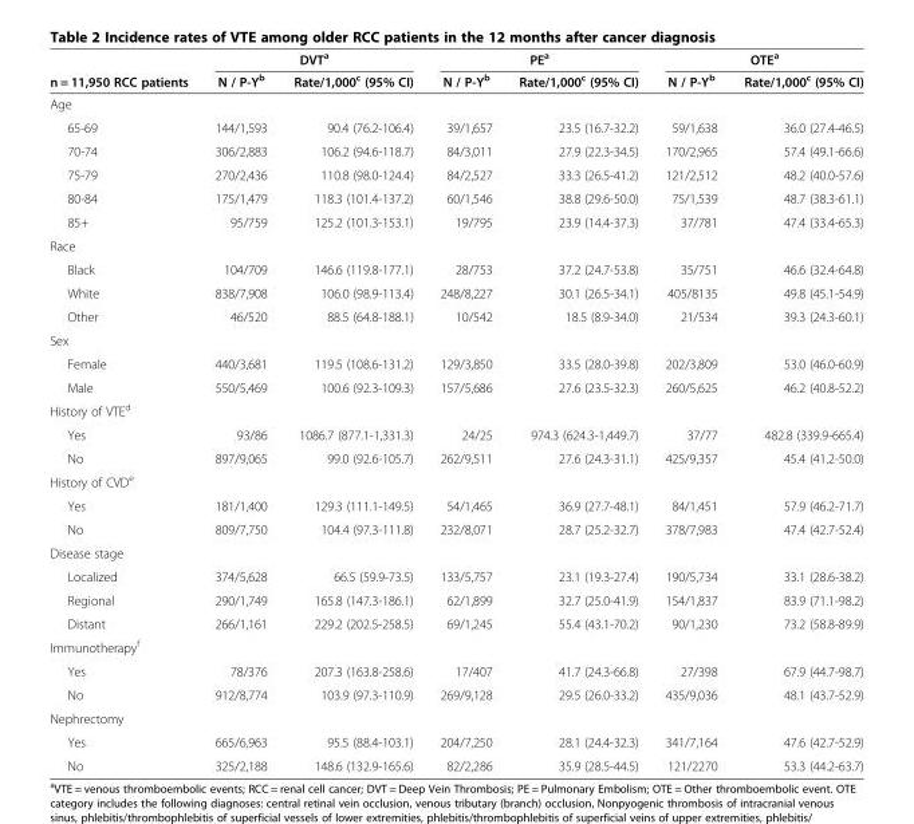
<table><thead><tr><td rowspan="2">n = 11,950 RCC patients</td><td colspan="2">DVT<sup>a</sup></td><td colspan="2">PE<sup>a</sup></td><td colspan="2">OTE<sup>a</sup></td></tr><tr><td>N / P-Y<sup>b</sup></td><td>Rate/1,000<sup>c</sup> (95% CI)</td><td>N / P-Y<sup>b</sup></td><td>Rate/1,000<sup>c</sup> (95% CI)</td><td>N / P-Y<sup>b</sup></td><td>Rate/1,000<sup>c</sup> (95% CI)</td></tr></thead><tbody><tr><td colspan="7">Age</td></tr><tr><td>65-69</td><td>144/1,593</td><td>90.4 (76.2-106.4)</td><td>39/1,657</td><td>23.5 (16.7-32.2)</td><td>59/1,638</td><td>36.0 (27.4-46.5)</td></tr><tr><td>70-74</td><td>306/2,883</td><td>106.2 (94.6-118.7)</td><td>84/3,011</td><td>27.9 (22.3-34.5)</td><td>170/2,965</td><td>57.4 (49.1-66.6)</td></tr><tr><td>75-79</td><td>270/2,436</td><td>110.8 (98.0-124.4)</td><td>84/2,527</td><td>33.3 (26.5-41.2)</td><td>121/2,512</td><td>48.2 (40.0-57.6)</td></tr><tr><td>80-84</td><td>175/1,479</td><td>118.3 (101.4-137.2)</td><td>60/1,546</td><td>38.8 (29.6-50.0)</td><td>75/1,539</td><td>48.7 (38.3-61.1)</td></tr><tr><td>85+</td><td>95/759</td><td>125.2 (101.3-153.1)</td><td>19/795</td><td>23.9 (14.4-37.3)</td><td>37/781</td><td>47.4 (33.4-65.3)</td></tr><tr><td colspan="7">Race</td></tr><tr><td>Black</td><td>104/709</td><td>146.6 (119.8-177.1)</td><td>28/753</td><td>37.2 (24.7-53.8)</td><td>35/751</td><td>46.6 (32.4-64.8)</td></tr><tr><td>White</td><td>838/7,908</td><td>106.0 (98.9-113.4)</td><td>248/8,227</td><td>30.1 (26.5-34.1)</td><td>405/8135</td><td>49.8 (45.1-54.9)</td></tr><tr><td>Other</td><td>46/520</td><td>88.5 (64.8-188.1)</td><td>10/542</td><td>18.5 (8.9-34.0)</td><td>21/534</td><td>39.3 (24.3-60.1)</td></tr><tr><td colspan="7">Sex</td></tr><tr><td>Female</td><td>440/3,681</td><td>119.5 (108.6-131.2)</td><td>129/3,850</td><td>33.5 (28.0-39.8)</td><td>202/3,809</td><td>53.0 (46.0-60.9)</td></tr><tr><td>Male</td><td>550/5,469</td><td>100.6 (92.3-109.3)</td><td>157/5,686</td><td>27.6 (23.5-32.3)</td><td>260/5,625</td><td>46.2 (40.8-52.2)</td></tr><tr><td colspan="7">History of VTE<sup>d</sup></td></tr><tr><td>Yes</td><td>93/86</td><td>1086.7 (877.1-1,331.3)</td><td>24/25</td><td>974.3 (624.3-1,449.7)</td><td>37/77</td><td>482.8 (339.9-665.4)</td></tr><tr><td>No</td><td>897/9,065</td><td>99.0 (92.6-105.7)</td><td>262/9,511</td><td>27.6 (24.3-31.1)</td><td>425/9,357</td><td>45.4 (41.2-50.0)</td></tr><tr><td colspan="7">History of CVD<sup>e</sup></td></tr><tr><td>Yes</td><td>181/1,400</td><td>129.3 (111.1-149.5)</td><td>54/1,465</td><td>36.9 (27.7-48.1)</td><td>84/1,451</td><td>57.9 (46.2-71.7)</td></tr><tr><td>No</td><td>809/7,750</td><td>104.4 (97.3-111.8)</td><td>232/8,071</td><td>28.7 (25.2-32.7)</td><td>378/7,983</td><td>47.4 (42.7-52.4)</td></tr><tr><td colspan="7">Disease stage</td></tr><tr><td>Localized</td><td>374/5,628</td><td>66.5 (59.9-73.5)</td><td>133/5,757</td><td>23.1 (19.3-27.4)</td><td>190/5,734</td><td>33.1 (28.6-38.2)</td></tr><tr><td>Regional</td><td>290/1,749</td><td>165.8 (147.3-186.1)</td><td>62/1,899</td><td>32.7 (25.0-41.9)</td><td>154/1,837</td><td>83.9 (71.1-98.2)</td></tr><tr><td>Distant</td><td>266/1,161</td><td>229.2 (202.5-258.5)</td><td>69/1,245</td><td>55.4 (43.1-70.2)</td><td>90/1,230</td><td>73.2 (58.8-89.9)</td></tr><tr><td colspan="7">Immunotherapy<sup>f</sup></td></tr><tr><td>Yes</td><td>78/376</td><td>207.3 (163.8-258.6)</td><td>17/407</td><td>41.7 (24.3-66.8)</td><td>27/398</td><td>67.9 (44.7-98.7)</td></tr><tr><td>No</td><td>912/8,774</td><td>103.9 (97.3-110.9)</td><td>269/9,128</td><td>29.5 (26.0-33.2)</td><td>435/9,036</td><td>48.1 (43.7-52.9)</td></tr><tr><td colspan="7">Nephrectomy</td></tr><tr><td>Yes</td><td>665/6,963</td><td>95.5 (88.4-103.1)</td><td>204/7,250</td><td>28.1 (24.4-32.3)</td><td>341/7,164</td><td>47.6 (42.7-52.9)</td></tr><tr><td>No</td><td>325/2,188</td><td>148.6 (132.9-165.6)</td><td>82/2,286</td><td>35.9 (28.5-44.5)</td><td>121/2270</td><td>53.3 (44.2-63.7)</td></tr></tbody></table>